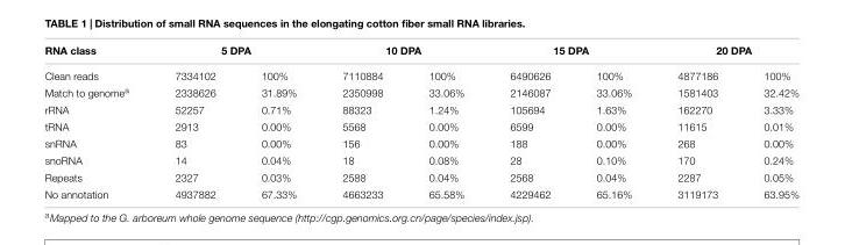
<table><thead><tr><td rowspan="2">RNA class Clean reads</td><td colspan="2">5 DPA</td><td colspan="2">10 DPA</td><td colspan="2">15 DPA</td><td colspan="2">20 DPA</td></tr><tr><td>7334102</td><td>100%</td><td>7110884</td><td>100%</td><td>6490626</td><td>100%</td><td>4877186</td><td>100%</td></tr></thead><tbody><tr><td>Match to genome<sup>a</sup></td><td>2338626</td><td>31.89%</td><td>2350998</td><td>33.06%</td><td>2146087</td><td>33.06%</td><td>1581403</td><td>32.42%</td></tr><tr><td>rRNA</td><td>52257</td><td>0.71%</td><td>88323</td><td>1.24%</td><td>105694</td><td>1.63%</td><td>162270</td><td>3.33%</td></tr><tr><td>tRNA</td><td>2913</td><td>0.00%</td><td>5568</td><td>0.00%</td><td>6599</td><td>0.00%</td><td>11615</td><td>0.01%</td></tr><tr><td>snRNA</td><td>83</td><td>0.00%</td><td>156</td><td>0.00%</td><td>188</td><td>0.00%</td><td>268</td><td>0.00%</td></tr><tr><td>snoRNA</td><td>14</td><td>0.04%</td><td>18</td><td>0.08%</td><td>28</td><td>0.10%</td><td>170</td><td>0.24%</td></tr><tr><td>Repeats</td><td>2327</td><td>0.03%</td><td>2588</td><td>0.04%</td><td>2568</td><td>0.04%</td><td>2287</td><td>0.05%</td></tr><tr><td>No annotation</td><td>4937882</td><td>67.33%</td><td>4663233</td><td>65.58%</td><td>4229462</td><td>65.16%</td><td>3119173</td><td>63.95%</td></tr></tbody></table>